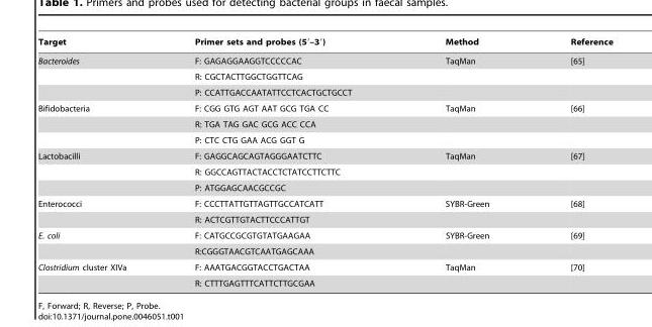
<table><thead><tr><td>Target</td><td>Primer sets and probes (5′–3′)</td><td>Method</td><td>Reference</td></tr></thead><tbody><tr><td rowspan="3">Bacteroides</td><td>F: GAGAGGAAGGTCCCCCAC</td><td>TaqMan</td><td>[65]</td></tr><tr><td>R: CGCTACTTGGCTGGTTCAG</td><td></td><td></td></tr><tr><td>P: CCATTGACCAATATTCCTCACTGCTGCCT</td><td></td><td></td></tr><tr><td rowspan="3">Bifidobacteria</td><td>F: CGG GTG AGT AAT GCG TGA CC</td><td>TaqMan</td><td>[66]</td></tr><tr><td>R: TGA TAG GAC GCG ACC CCA</td><td></td><td></td></tr><tr><td>P: CTC CTG GAA ACG GGT G</td><td></td><td></td></tr><tr><td rowspan="3">Lactobacilli</td><td>F: GAGGCAGCAGTAGGGAATCTTC</td><td>TaqMan</td><td>[67]</td></tr><tr><td>R: GGCCAGTTACTACCTCTATCCTTCTTC</td><td></td><td></td></tr><tr><td>P: ATGGAGCAACGCCGC</td><td></td><td></td></tr><tr><td rowspan="2">Enterococci</td><td>F: CCCTTATTGTTAGTTGCCATCATT</td><td>SYBR-Green</td><td>[68]</td></tr><tr><td>R: ACTCGTTGTACTTCCCATTGT</td><td></td><td></td></tr><tr><td rowspan="2">E. coli</td><td>F: CATGCCGCGTGTATGAAGAA</td><td>SYBR-Green</td><td>[69]</td></tr><tr><td>R:CGGGTAACGTCAATGAGCAAA</td><td></td><td></td></tr><tr><td rowspan="2">Clostridium cluster XIVa</td><td>F: AAATGACGGTACCTGACTAA</td><td>TaqMan</td><td>[70]</td></tr><tr><td>R: CTTTGAGTTTCATTCTTGCGAA</td><td></td><td></td></tr></tbody></table>